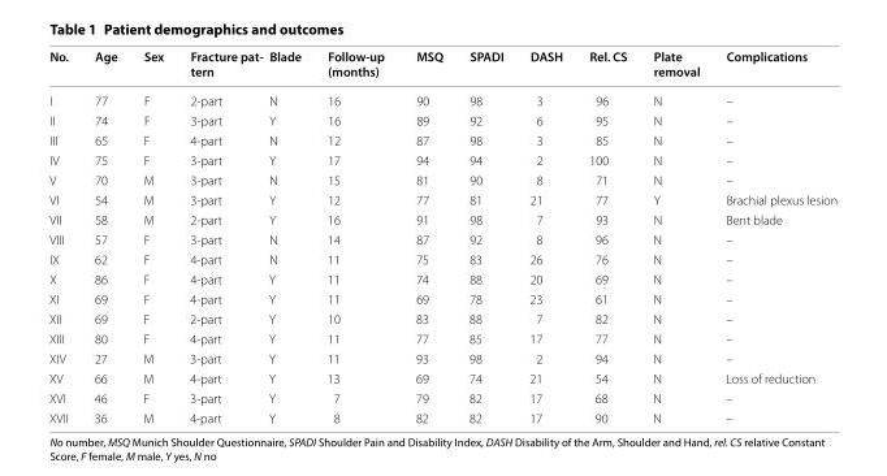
<table><thead><tr><td>No.</td><td>Age</td><td>Sex</td><td>Fracture pat‑ tern</td><td>Blade</td><td>Follow‑up (months)</td><td>MSQ</td><td>SPADI</td><td>DASH</td><td>Rel. CS</td><td>Plate removal</td><td>Complications</td></tr></thead><tbody><tr><td>I</td><td>77</td><td>F</td><td>2‑part</td><td>N</td><td>16</td><td>90</td><td>98</td><td>3</td><td>96</td><td>N</td><td>–</td></tr><tr><td>II</td><td>74</td><td>F</td><td>3‑part</td><td>Y</td><td>16</td><td>89</td><td>92</td><td>6</td><td>95</td><td>N</td><td>–</td></tr><tr><td>III</td><td>65</td><td>F</td><td>4‑part</td><td>N</td><td>12</td><td>87</td><td>98</td><td>3</td><td>85</td><td>N</td><td>–</td></tr><tr><td>IV</td><td>75</td><td>F</td><td>3‑part</td><td>Y</td><td>17</td><td>94</td><td>94</td><td>2</td><td>100</td><td>N</td><td>–</td></tr><tr><td>V</td><td>70</td><td>M</td><td>3‑part</td><td>N</td><td>15</td><td>81</td><td>90</td><td>8</td><td>71</td><td>N</td><td>–</td></tr><tr><td>VI</td><td>54</td><td>M</td><td>3‑part</td><td>Y</td><td>12</td><td>77</td><td>81</td><td>21</td><td>77</td><td>Y</td><td>Brachial plexus lesion</td></tr><tr><td>VII</td><td>58</td><td>M</td><td>2‑part</td><td>Y</td><td>16</td><td>91</td><td>98</td><td>7</td><td>93</td><td>N</td><td>Bent blade</td></tr><tr><td>VIII</td><td>57</td><td>F</td><td>3‑part</td><td>N</td><td>14</td><td>87</td><td>92</td><td>8</td><td>96</td><td>N</td><td>–</td></tr><tr><td>IX</td><td>62</td><td>F</td><td>4‑part</td><td>N</td><td>11</td><td>75</td><td>83</td><td>26</td><td>76</td><td>N</td><td>–</td></tr><tr><td>X</td><td>86</td><td>F</td><td>4‑part</td><td>Y</td><td>11</td><td>74</td><td>88</td><td>20</td><td>69</td><td>N</td><td>–</td></tr><tr><td>XI</td><td>69</td><td>F</td><td>4‑part</td><td>Y</td><td>11</td><td>69</td><td>78</td><td>23</td><td>61</td><td>N</td><td>–</td></tr><tr><td>XII</td><td>69</td><td>F</td><td>2‑part</td><td>Y</td><td>10</td><td>83</td><td>88</td><td>7</td><td>82</td><td>N</td><td>–</td></tr><tr><td>XIII</td><td>80</td><td>F</td><td>4‑part</td><td>Y</td><td>11</td><td>77</td><td>85</td><td>17</td><td>77</td><td>N</td><td>–</td></tr><tr><td>XIV</td><td>27</td><td>M</td><td>3‑part</td><td>Y</td><td>11</td><td>93</td><td>98</td><td>2</td><td>94</td><td>N</td><td>–</td></tr><tr><td>XV</td><td>66</td><td>M</td><td>4‑part</td><td>Y</td><td>13</td><td>69</td><td>74</td><td>21</td><td>54</td><td>N</td><td>Loss of reduction</td></tr><tr><td>XVI</td><td>46</td><td>F</td><td>3‑part</td><td>Y</td><td>7</td><td>79</td><td>82</td><td>17</td><td>68</td><td>N</td><td>–</td></tr><tr><td>XVII</td><td>36</td><td>M</td><td>4‑part</td><td>Y</td><td>8</td><td>82</td><td>82</td><td>17</td><td>90</td><td>N</td><td>–</td></tr></tbody></table>